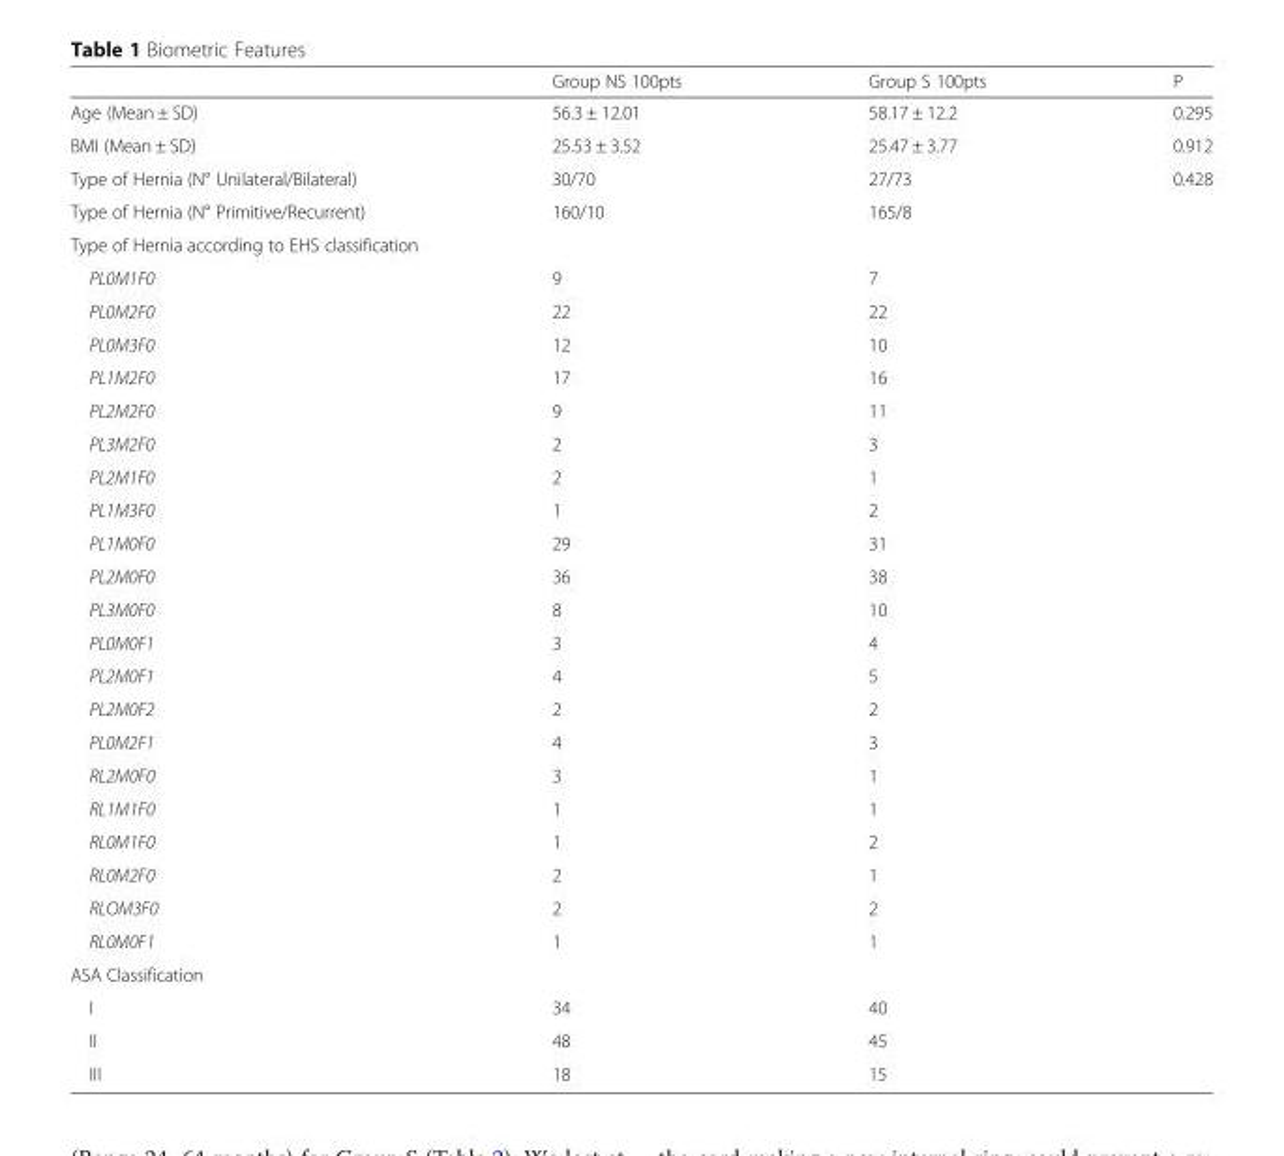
<table><thead><tr><td></td><td>Group NS 100pts</td><td>Group S 100pts</td><td>P</td></tr></thead><tbody><tr><td>Age (Mean ± SD)</td><td>56.3 ± 12.01</td><td>58.17 ± 12.2</td><td>0.295</td></tr><tr><td>BMI (Mean ± SD)</td><td>25.53 ± 3.52</td><td>25.47 ± 3.77</td><td>0.912</td></tr><tr><td>Type of Hernia (N° Unilateral/Bilateral)</td><td>30/70</td><td>27/73</td><td>0.428</td></tr><tr><td>Type of Hernia (N° Primitive/Recurrent)</td><td>160/10</td><td>165/8</td><td></td></tr><tr><td colspan="4">Type of Hernia according to EHS classification</td></tr><tr><td>PL0M1F0</td><td>9</td><td>7</td><td></td></tr><tr><td>PL0M2F0</td><td>22</td><td>22</td><td></td></tr><tr><td>PL0M3F0</td><td>12</td><td>10</td><td></td></tr><tr><td>PL1M2F0</td><td>17</td><td>16</td><td></td></tr><tr><td>PL2M2F0</td><td>9</td><td>11</td><td></td></tr><tr><td>PL3M2F0</td><td>2</td><td>3</td><td></td></tr><tr><td>PL2M1F0</td><td>2</td><td>1</td><td></td></tr><tr><td>PL1M3F0</td><td>1</td><td>2</td><td></td></tr><tr><td>PL1M0F0</td><td>29</td><td>31</td><td></td></tr><tr><td>PL2M0F0</td><td>36</td><td>38</td><td></td></tr><tr><td>PL3M0F0</td><td>8</td><td>10</td><td></td></tr><tr><td>PL0M0F1</td><td>3</td><td>4</td><td></td></tr><tr><td>PL2M0F1</td><td>4</td><td>5</td><td></td></tr><tr><td>PL2M0F2</td><td>2</td><td>2</td><td></td></tr><tr><td>PL0M2F1</td><td>4</td><td>3</td><td></td></tr><tr><td>RL2M0F0</td><td>3</td><td>1</td><td></td></tr><tr><td>RL1M1F0</td><td>1</td><td>1</td><td></td></tr><tr><td>RL0M1F0</td><td>1</td><td>2</td><td></td></tr><tr><td>RL0M2F0</td><td>2</td><td>1</td><td></td></tr><tr><td>RLOM3F0</td><td>2</td><td>2</td><td></td></tr><tr><td>RL0M0F1</td><td>1</td><td>1</td><td></td></tr><tr><td colspan="4">ASA Classification</td></tr><tr><td>I</td><td>34</td><td>40</td><td></td></tr><tr><td>II</td><td>48</td><td>45</td><td></td></tr><tr><td>III</td><td>18</td><td>15</td><td></td></tr></tbody></table>